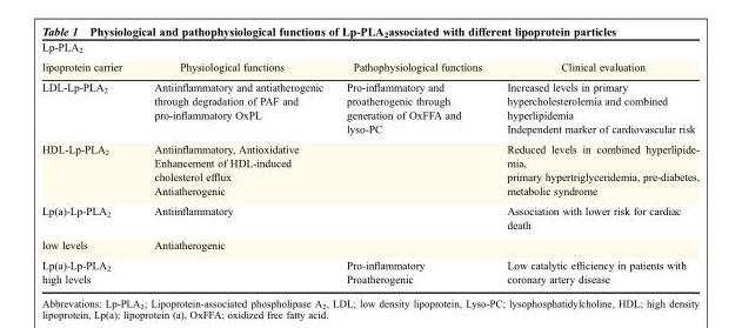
<table><thead><tr><td>Lp-PLA<sub>2</sub></td><td></td><td></td><td></td></tr></thead><tbody><tr><td>lipoprotein carrier</td><td>Physiological functions</td><td>Pathophysiological functions</td><td>Clinical evaluation</td></tr><tr><td>LDL-Lp-PLA<sub>2</sub></td><td>Antiinflammatory and antiatherogenic through degradation of PAF and pro-inflammatory OxPL</td><td>Pro-inflammatory and proatherogenic through generation of OxFFA and lyso-PC</td><td>Increased levels in primary hypercholesterolemia and combined hyperlipidemia Independent marker of cardiovascular risk</td></tr><tr><td>HDL-Lp-PLA<sub>2</sub></td><td>Antiinflammatory, Antioxidative Enhancement of HDL-induced cholesterol efflux Antiatherogenic</td><td></td><td>Reduced levels in combined hyperlipide- mia, primary hypertriglyceridemia, pre-diabetes, metabolic syndrome</td></tr><tr><td>Lp(a)-Lp-PLA<sub>2</sub></td><td>Antiinflammatory</td><td></td><td>Association with lower risk for cardiac death</td></tr><tr><td>low levels</td><td>Antiatherogenic</td><td></td><td></td></tr><tr><td>Lp(a)-Lp-PLA<sub>2</sub> high levels</td><td></td><td>Pro-inflammatory Proatherogenic</td><td>Low catalytic efficiency in patients with coronary artery disease</td></tr></tbody></table>